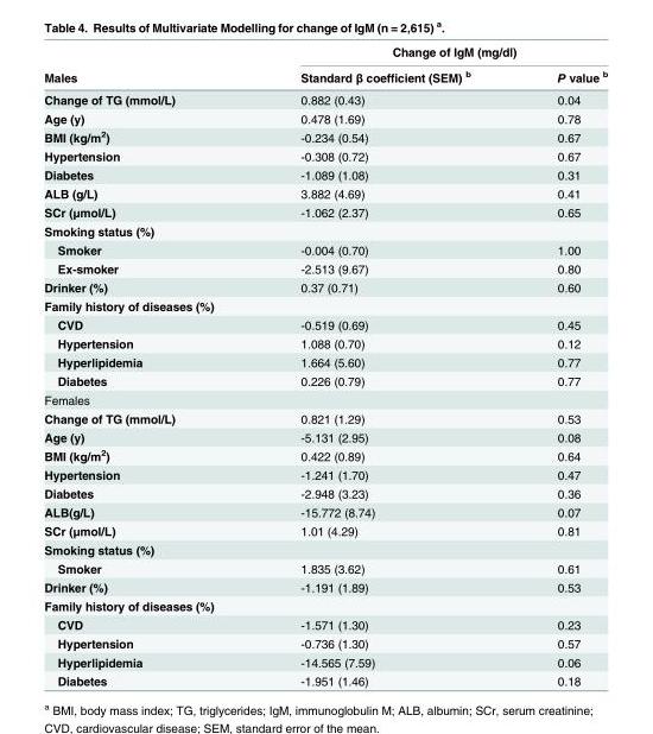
<table><thead><tr><td rowspan="2">Males</td><td colspan="2">Change of IgM (mg/dl)</td></tr><tr><td>Standard β coefficient (SEM) <sup>b</sup></td><td>P value <sup>b</sup></td></tr></thead><tbody><tr><td>Change of TG (mmol/L)</td><td>0.882 (0.43)</td><td>0.04</td></tr><tr><td>Age (y)</td><td>0.478 (1.69)</td><td>0.78</td></tr><tr><td>BMI (kg/m<sup>2</sup>)</td><td>-0.234 (0.54)</td><td>0.67</td></tr><tr><td>Hypertension</td><td>-0.308 (0.72)</td><td>0.67</td></tr><tr><td>Diabetes</td><td>-1.089 (1.08)</td><td>0.31</td></tr><tr><td>ALB (g/L)</td><td>3.882 (4.69)</td><td>0.41</td></tr><tr><td>SCr (μmol/L)</td><td>-1.062 (2.37)</td><td>0.65</td></tr><tr><td colspan="3">Smoking status (%)</td></tr><tr><td>Smoker</td><td>-0.004 (0.70)</td><td>1.00</td></tr><tr><td>Ex-smoker</td><td>-2.513 (9.67)</td><td>0.80</td></tr><tr><td>Drinker (%)</td><td>0.37 (0.71)</td><td>0.60</td></tr><tr><td colspan="3">Family history of diseases (%)</td></tr><tr><td>CVD</td><td>-0.519 (0.69)</td><td>0.45</td></tr><tr><td>Hypertension</td><td>1.088 (0.70)</td><td>0.12</td></tr><tr><td>Hyperlipidemia</td><td>1.664 (5.60)</td><td>0.77</td></tr><tr><td>Diabetes</td><td>0.226 (0.79)</td><td>0.77</td></tr><tr><td colspan="3">Females</td></tr><tr><td>Change of TG (mmol/L)</td><td>0.821 (1.29)</td><td>0.53</td></tr><tr><td>Age (y)</td><td>-5.131 (2.95)</td><td>0.08</td></tr><tr><td>BMI (kg/m<sup>2</sup>)</td><td>0.422 (0.89)</td><td>0.64</td></tr><tr><td>Hypertension</td><td>-1.241 (1.70)</td><td>0.47</td></tr><tr><td>Diabetes</td><td>-2.948 (3.23)</td><td>0.36</td></tr><tr><td>ALB(g/L)</td><td>-15.772 (8.74)</td><td>0.07</td></tr><tr><td>SCr (μmol/L)</td><td>1.01 (4.29)</td><td>0.81</td></tr><tr><td colspan="3">Smoking status (%)</td></tr><tr><td>Smoker</td><td>1.835 (3.62)</td><td>0.61</td></tr><tr><td>Drinker (%)</td><td>-1.191 (1.89)</td><td>0.53</td></tr><tr><td colspan="3">Family history of diseases (%)</td></tr><tr><td>CVD</td><td>-1.571 (1.30)</td><td>0.23</td></tr><tr><td>Hypertension</td><td>-0.736 (1.30)</td><td>0.57</td></tr><tr><td>Hyperlipidemia</td><td>-14.565 (7.59)</td><td>0.06</td></tr><tr><td>Diabetes</td><td>-1.951 (1.46)</td><td>0.18</td></tr></tbody></table>